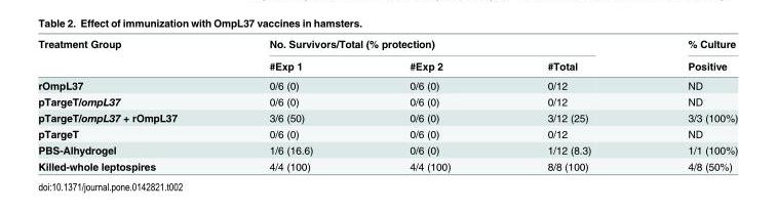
<table><thead><tr><td rowspan="2">Treatment Group</td><td colspan="3">No. Survivors/Total (% protection)</td><td rowspan="2">% Culture Positive</td></tr><tr><td>#Exp 1</td><td>#Exp 2</td><td>#Total</td></tr></thead><tbody><tr><td>rOmpL37</td><td>0/6 (0)</td><td>0/6 (0)</td><td>0/12</td><td>ND</td></tr><tr><td>pTargeT/ompL37</td><td>0/6 (0)</td><td>0/6 (0)</td><td>0/12</td><td>ND</td></tr><tr><td>pTargeT/ompL37 + rOmpL37</td><td>3/6 (50)</td><td>0/6 (0)</td><td>3/12 (25)</td><td>3/3 (100%)</td></tr><tr><td>pTargeT</td><td>0/6 (0)</td><td>0/6 (0)</td><td>0/12</td><td>ND</td></tr><tr><td>PBS-Alhydrogel</td><td>1/6 (16.6)</td><td>0/6 (0)</td><td>1/12 (8.3)</td><td>1/1 (100%)</td></tr><tr><td>Killed-whole leptospires</td><td>4/4 (100)</td><td>4/4 (100)</td><td>8/8 (100)</td><td>4/8 (50%)</td></tr></tbody></table>